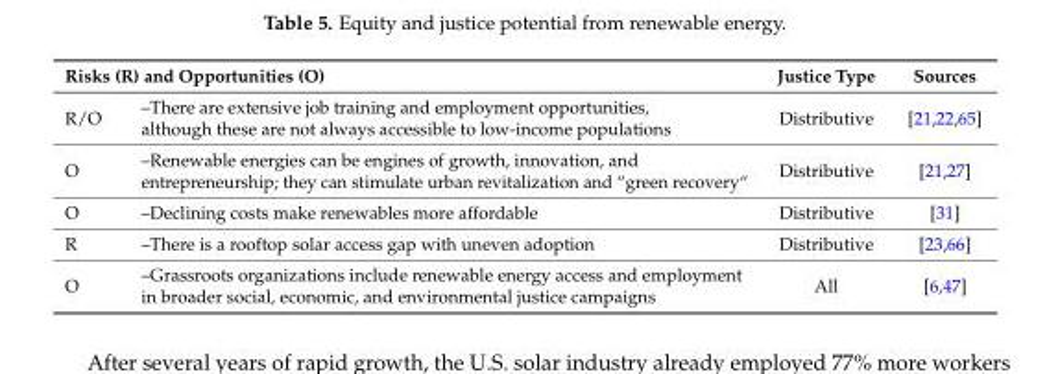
<table><thead><tr><td colspan="2">Risks (R) and Opportunities (O)</td><td rowspan="2">Justice Type Distributive</td><td rowspan="2">Sources [21,22,65]</td></tr><tr><td>R/O</td><td>–There are extensive job training and employment opportunities, although these are not always accessible to low-income populations</td></tr></thead><tbody><tr><td>O</td><td>–Renewable energies can be engines of growth, innovation, and entrepreneurship; they can stimulate urban revitalization and “green recovery“</td><td>Distributive</td><td>[21,27]</td></tr><tr><td>O</td><td>–Declining costs make renewables more affordable</td><td>Distributive</td><td>[31]</td></tr><tr><td>R</td><td>–There is a rooftop solar access gap with uneven adoption</td><td>Distributive</td><td>[23,66]</td></tr><tr><td>O</td><td>–Grassroots organizations include renewable energy access and employment in broader social, economic, and environmental justice campaigns</td><td>All</td><td>[6,47]</td></tr></tbody></table>